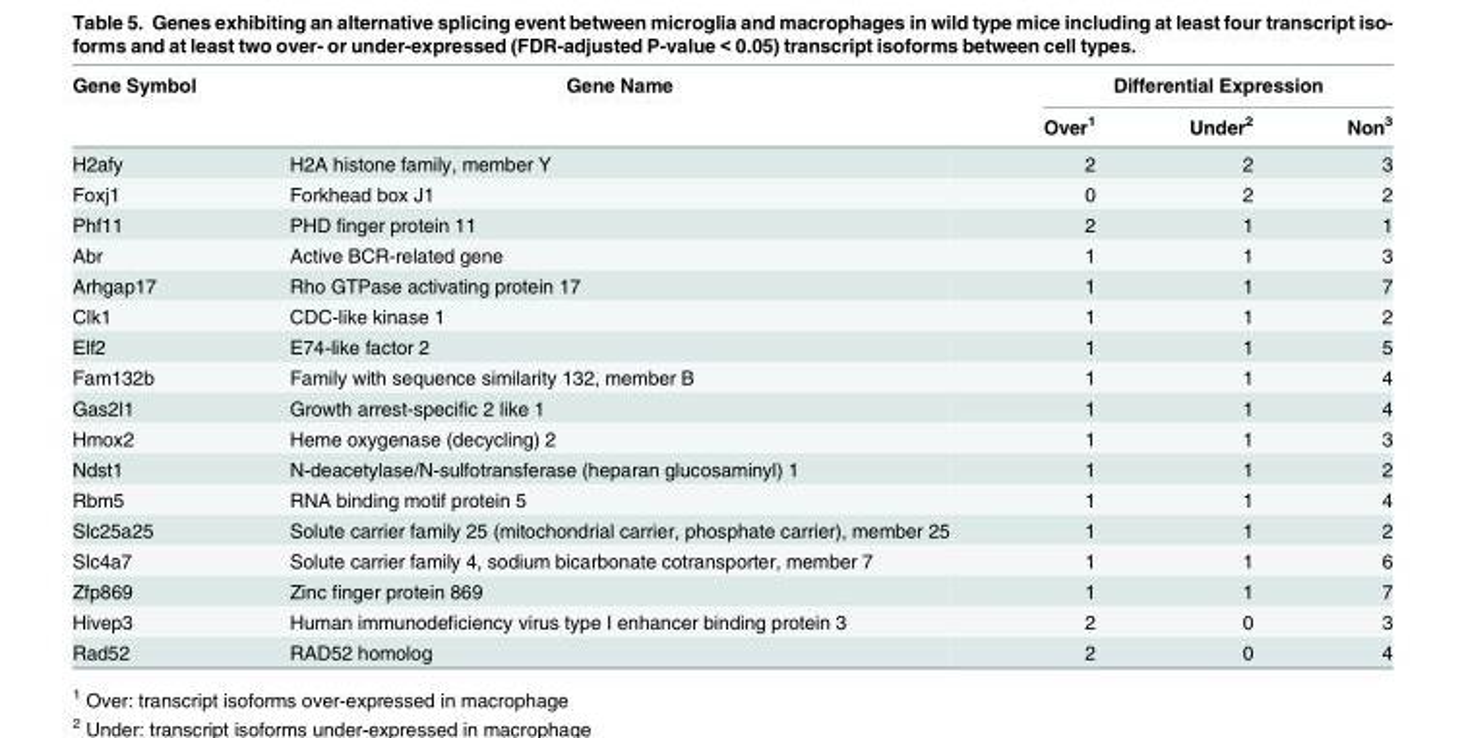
<table><thead><tr><td rowspan="2">Gene Symbol</td><td rowspan="2">Gene Name</td><td colspan="3">Differential Expression</td></tr><tr><td>Over<sup>1</sup></td><td>Under<sup>2</sup></td><td>Non<sup>3</sup></td></tr></thead><tbody><tr><td>H2afy</td><td>H2A histone family, member Y</td><td>2</td><td>2</td><td>3</td></tr><tr><td>Foxj1</td><td>Forkhead box J1</td><td>0</td><td>2</td><td>2</td></tr><tr><td>Phf11</td><td>PHD finger protein 11</td><td>2</td><td>1</td><td>1</td></tr><tr><td>Abr</td><td>Active BCR-related gene</td><td>1</td><td>1</td><td>3</td></tr><tr><td>Arhgap17</td><td>Rho GTPase activating protein 17</td><td>1</td><td>1</td><td>7</td></tr><tr><td>Clk1</td><td>CDC-like kinase 1</td><td>1</td><td>1</td><td>2</td></tr><tr><td>Elf2</td><td>E74-like factor 2</td><td>1</td><td>1</td><td>5</td></tr><tr><td>Fam132b</td><td>Family with sequence similarity 132, member B</td><td>1</td><td>1</td><td>4</td></tr><tr><td>Gas2l1</td><td>Growth arrest-specific 2 like 1</td><td>1</td><td>1</td><td>4</td></tr><tr><td>Hmox2</td><td>Heme oxygenase (decycling) 2</td><td>1</td><td>1</td><td>3</td></tr><tr><td>Ndst1</td><td>N-deacetylase/N-sulfotransferase (heparan glucosaminyl) 1</td><td>1</td><td>1</td><td>2</td></tr><tr><td>Rbm5</td><td>RNA binding motif protein 5</td><td>1</td><td>1</td><td>4</td></tr><tr><td>Slc25a25</td><td>Solute carrier family 25 (mitochondrial carrier, phosphate carrier), member 25</td><td>1</td><td>1</td><td>2</td></tr><tr><td>Slc4a7</td><td>Solute carrier family 4, sodium bicarbonate cotransporter, member 7</td><td>1</td><td>1</td><td>6</td></tr><tr><td>Zfp869</td><td>Zinc finger protein 869</td><td>1</td><td>1</td><td>7</td></tr><tr><td>Hivep3</td><td>Human immunodeficiency virus type I enhancer binding protein 3</td><td>2</td><td>0</td><td>3</td></tr><tr><td>Rad52</td><td>RAD52 homolog</td><td>2</td><td>0</td><td>4</td></tr></tbody></table>